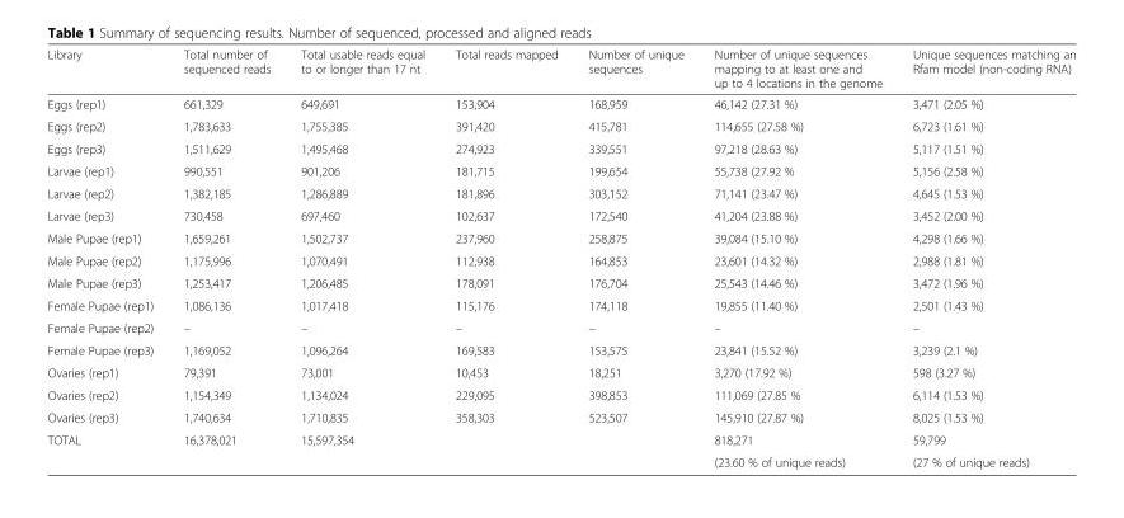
<table><thead><tr><td>Library</td><td>Total number of sequenced reads</td><td>Total usable reads equal to or longer than 17 nt</td><td>Total reads mapped</td><td>Number of unique sequences</td><td>Number of unique sequences mapping to at least one and up to 4 locations in the genome</td><td>Unique sequences matching an Rfam model (non-coding RNA)</td></tr></thead><tbody><tr><td>Eggs (rep1)</td><td>661,329</td><td>649,691</td><td>153,904</td><td>168,959</td><td>46,142 (27.31 %)</td><td>3,471 (2.05 %)</td></tr><tr><td>Eggs (rep2)</td><td>1,783,633</td><td>1,755,385</td><td>391,420</td><td>415,781</td><td>114,655 (27.58 %)</td><td>6,723 (1.61 %)</td></tr><tr><td>Eggs (rep3)</td><td>1,511,629</td><td>1,495,468</td><td>274,923</td><td>339,551</td><td>97,218 (28.63 %)</td><td>5,117 (1.51 %)</td></tr><tr><td>Larvae (rep1)</td><td>990,551</td><td>901,206</td><td>181,715</td><td>199,654</td><td>55,738 (27.92 %</td><td>5,156 (2.58 %)</td></tr><tr><td>Larvae (rep2)</td><td>1,382,185</td><td>1,286,889</td><td>181,896</td><td>303,152</td><td>71,141 (23.47 %)</td><td>4,645 (1.53 %)</td></tr><tr><td>Larvae (rep3)</td><td>730,458</td><td>697,460</td><td>102,637</td><td>172,540</td><td>41,204 (23.88 %)</td><td>3,452 (2.00 %)</td></tr><tr><td>Male Pupae (rep1)</td><td>1,659,261</td><td>1,502,737</td><td>237,960</td><td>258,875</td><td>39,084 (15.10 %)</td><td>4,298 (1.66 %)</td></tr><tr><td>Male Pupae (rep2)</td><td>1,175,996</td><td>1,070,491</td><td>112,938</td><td>164,853</td><td>23,601 (14.32 %)</td><td>2,988 (1.81 %)</td></tr><tr><td>Male Pupae (rep3)</td><td>1,253,417</td><td>1,206,485</td><td>178,091</td><td>176,704</td><td>25,543 (14.46 %)</td><td>3,472 (1.96 %)</td></tr><tr><td>Female Pupae (rep1)</td><td>1,086,136</td><td>1,017,418</td><td>115,176</td><td>174,118</td><td>19,855 (11.40 %)</td><td>2,501 (1.43 %)</td></tr><tr><td>Female Pupae (rep2)</td><td>–</td><td>–</td><td>–</td><td>–</td><td>–</td><td>–</td></tr><tr><td>Female Pupae (rep3)</td><td>1,169,052</td><td>1,096,264</td><td>169,583</td><td>153,575</td><td>23,841 (15.52 %)</td><td>3,239 (2.1 %)</td></tr><tr><td>Ovaries (rep1)</td><td>79,391</td><td>73,001</td><td>10,453</td><td>18,251</td><td>3,270 (17.92 %)</td><td>598 (3.27 %)</td></tr><tr><td>Ovaries (rep2)</td><td>1,154,349</td><td>1,134,024</td><td>229,095</td><td>398,853</td><td>111,069 (27.85 %</td><td>6,114 (1.53 %)</td></tr><tr><td>Ovaries (rep3)</td><td>1,740,634</td><td>1,710,835</td><td>358,303</td><td>523,507</td><td>145,910 (27.87 %)</td><td>8,025 (1.53 %)</td></tr><tr><td rowspan="2">TOTAL</td><td rowspan="2">16,378,021</td><td rowspan="2">15,597,354</td><td rowspan="2"></td><td rowspan="2"></td><td>818,271</td><td>59,799</td></tr><tr><td>(23.60 % of unique reads)</td><td>(27 % of unique reads)</td></tr></tbody></table>